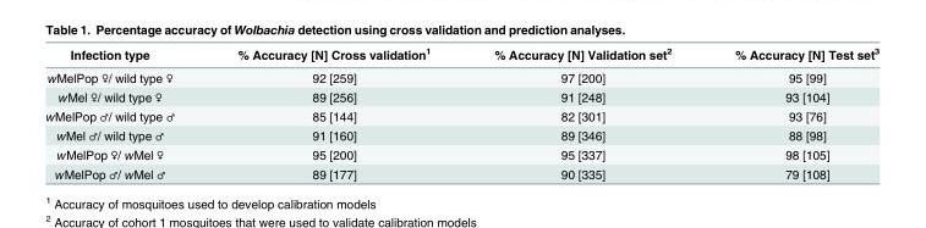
<table><thead><tr><td>Infection type</td><td>% Accuracy [N] Cross validation<sup>1</sup></td><td>% Accuracy [N] Validation set<sup>2</sup></td><td>% Accuracy [N] Test set<sup>3</sup></td></tr></thead><tbody><tr><td>wMelPop ♀/ wild type ♀</td><td>92 [259]</td><td>97 [200]</td><td>95 [99]</td></tr><tr><td>wMel ♀/ wild type ♀</td><td>89 [256]</td><td>91 [248]</td><td>93 [104]</td></tr><tr><td>wMelPop ♂/ wild type ♂</td><td>85 [144]</td><td>82 [301]</td><td>93 [76]</td></tr><tr><td>wMel ♂/ wild type ♂</td><td>91 [160]</td><td>89 [346]</td><td>88 [98]</td></tr><tr><td>wMelPop ♀/ wMel ♀</td><td>95 [200]</td><td>95 [337]</td><td>98 [105]</td></tr><tr><td>wMelPop ♂/ wMel ♂</td><td>89 [177]</td><td>90 [335]</td><td>79 [108]</td></tr></tbody></table>